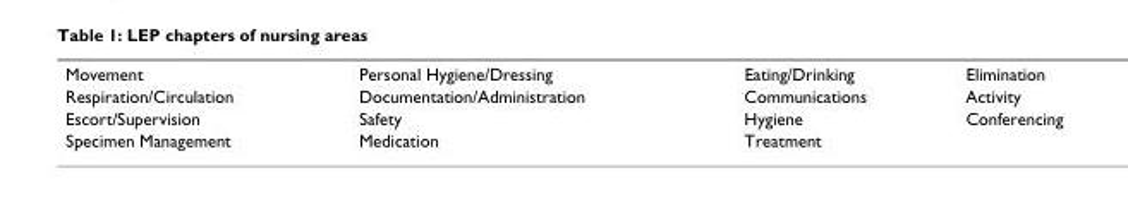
<table><tbody><tr><td>Movement</td><td>Personal Hygiene/Dressing</td><td>Eating/Drinking</td><td>Elimination</td></tr><tr><td>Respiration/Circulation</td><td>Documentation/Administration</td><td>Communications</td><td>Activity</td></tr><tr><td>Escort/Supervision</td><td>Safety</td><td>Hygiene</td><td>Conferencing</td></tr><tr><td>Specimen Management</td><td>Medication</td><td>Treatment</td><td></td></tr></tbody></table>